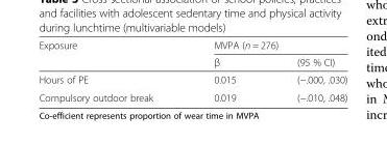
<table><thead><tr><td rowspan="2">Exposure</td><td colspan="2">MVPA (n = 276)</td></tr><tr><td>β</td><td>(95 % CI)</td></tr></thead><tbody><tr><td>Hours of PE</td><td>0.015</td><td>(−.000, .030)</td></tr><tr><td>Compulsory outdoor break</td><td>0.019</td><td>(−.010, .048)</td></tr></tbody></table>